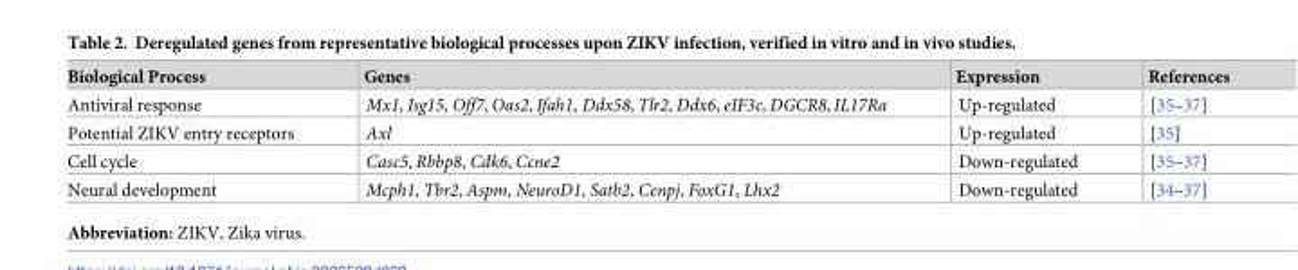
<table><thead><tr><td>Biological Process</td><td>Genes</td><td>Expression</td><td>References</td></tr></thead><tbody><tr><td>Antiviral response</td><td>Mx1, Isg15, Off7, Oas2, Ifah1, Ddx58, Tlr2, Ddx6, eIF3c, DGCR8, IL17Ra</td><td>Up-regulated</td><td>[35–37]</td></tr><tr><td>Potential ZIKV entry receptors</td><td>Axl</td><td>Up-regulated</td><td>[35]</td></tr><tr><td>Cell cycle</td><td>Casc5, Rbbp8, Cdk6, Ccne2</td><td>Down-regulated</td><td>[35–37]</td></tr><tr><td>Neural development</td><td>Mcph1, Tbr2, Aspm, NeuroD1, Satb2, Cenpj, FoxG1, Lhx2</td><td>Down-regulated</td><td>[34–37]</td></tr></tbody></table>